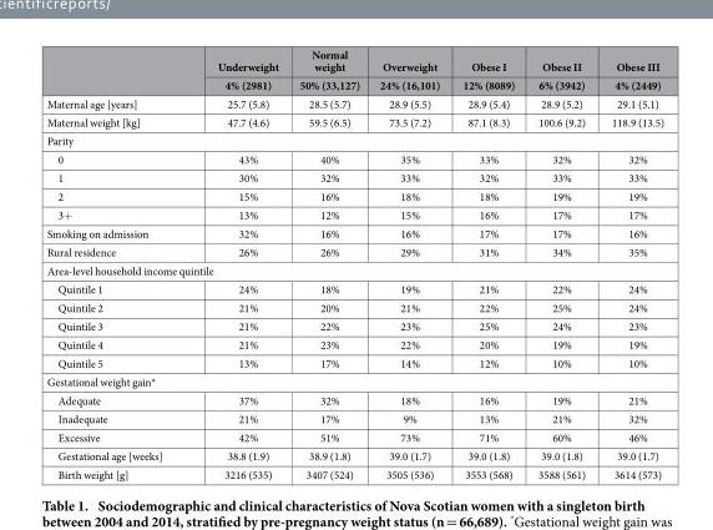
<table><thead><tr><td rowspan="2"></td><td rowspan="2">Underweight 4% (2981)</td><td rowspan="2">Normal weight 50% (33,127)</td><td rowspan="2">Overweight 24% (16,101)</td><td rowspan="2">Obese I 12% (8089)</td><td rowspan="2">Obese II 6% (3942)</td><td rowspan="2">Obese III 4% (2449)</td></tr><tr></tr></thead><tbody><tr><td>Maternal age [years]</td><td>25.7 (5.8)</td><td>28.5 (5.7)</td><td>28.9 (5.5)</td><td>28.9 (5.4)</td><td>28.9 (5.2)</td><td>29.1 (5.1)</td></tr><tr><td>Maternal weight [kg]</td><td>47.7 (4.6)</td><td>59.5 (6.5)</td><td>73.5 (7.2)</td><td>87.1 (8.3)</td><td>100.6 (9.2)</td><td>118.9 (13.5)</td></tr><tr><td colspan="7">Parity</td></tr><tr><td>0</td><td>43%</td><td>40%</td><td>35%</td><td>33%</td><td>32%</td><td>32%</td></tr><tr><td>1</td><td>30%</td><td>32%</td><td>33%</td><td>32%</td><td>33%</td><td>33%</td></tr><tr><td>2</td><td>15%</td><td>16%</td><td>18%</td><td>18%</td><td>19%</td><td>19%</td></tr><tr><td>3+</td><td>13%</td><td>12%</td><td>15%</td><td>16%</td><td>17%</td><td>17%</td></tr><tr><td>Smoking on admission</td><td>32%</td><td>16%</td><td>16%</td><td>17%</td><td>17%</td><td>16%</td></tr><tr><td>Rural residence</td><td>26%</td><td>26%</td><td>29%</td><td>31%</td><td>34%</td><td>35%</td></tr><tr><td colspan="7">Area-level household income quintile</td></tr><tr><td>Quintile 1</td><td>24%</td><td>18%</td><td>19%</td><td>21%</td><td>22%</td><td>24%</td></tr><tr><td>Quintile 2</td><td>21%</td><td>20%</td><td>21%</td><td>22%</td><td>25%</td><td>24%</td></tr><tr><td>Quintile 3</td><td>21%</td><td>22%</td><td>23%</td><td>25%</td><td>24%</td><td>23%</td></tr><tr><td>Quintile 4</td><td>21%</td><td>23%</td><td>22%</td><td>20%</td><td>19%</td><td>19%</td></tr><tr><td>Quintile 5</td><td>13%</td><td>17%</td><td>14%</td><td>12%</td><td>10%</td><td>10%</td></tr><tr><td colspan="7">Gestational weight gain*</td></tr><tr><td>Adequate</td><td>37%</td><td>32%</td><td>18%</td><td>16%</td><td>19%</td><td>21%</td></tr><tr><td>Inadequate</td><td>21%</td><td>17%</td><td>9%</td><td>13%</td><td>21%</td><td>32%</td></tr><tr><td>Excessive</td><td>42%</td><td>51%</td><td>73%</td><td>71%</td><td>60%</td><td>46%</td></tr><tr><td>Gestational age [weeks]</td><td>38.8 (1.9)</td><td>38.9 (1.8)</td><td>39.0 (1.7)</td><td>39.0 (1.8)</td><td>39.0 (1.8)</td><td>39.0 (1.7)</td></tr><tr><td>Birth weight [g]</td><td>3216 (535)</td><td>3407 (524)</td><td>3505 (536)</td><td>3553 (568)</td><td>3588 (561)</td><td>3614 (573)</td></tr></tbody></table>